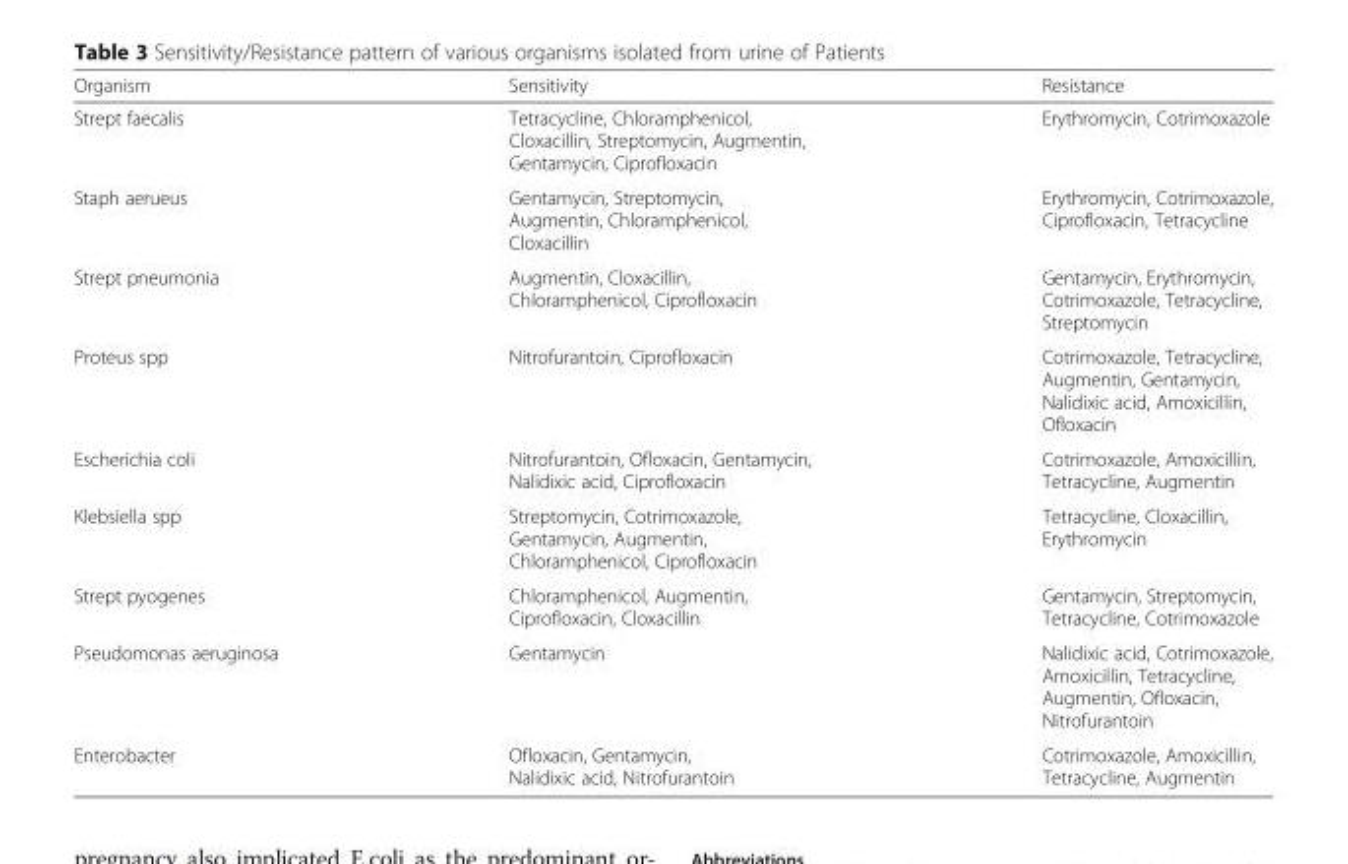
<table><thead><tr><td>Organism</td><td>Sensitivity</td><td>Resistance</td></tr></thead><tbody><tr><td>Strept faecalis</td><td>Tetracycline, Chloramphenicol, Cloxacillin, Streptomycin, Augmentin, Gentamycin, Ciprofloxacin</td><td>Erythromycin, Cotrimoxazole</td></tr><tr><td>Staph aerueus</td><td>Gentamycin, Streptomycin, Augmentin, Chloramphenicol, Cloxacillin</td><td>Erythromycin, Cotrimoxazole, Ciprofloxacin, Tetracycline</td></tr><tr><td>Strept pneumonia</td><td>Augmentin, Cloxacillin, Chloramphenicol, Ciprofloxacin</td><td>Gentamycin, Erythromycin, Cotrimoxazole, Tetracycline, Streptomycin</td></tr><tr><td>Proteus spp</td><td>Nitrofurantoin, Ciprofloxacin</td><td>Cotrimoxazole, Tetracycline, Augmentin, Gentamycin, Nalidixic acid, Amoxicillin, Ofloxacin</td></tr><tr><td>Escherichia coli</td><td>Nitrofurantoin, Ofloxacin, Gentamycin, Nalidixic acid, Ciprofloxacin</td><td>Cotrimoxazole, Amoxicillin, Tetracycline, Augmentin</td></tr><tr><td>Klebsiella spp</td><td>Streptomycin, Cotrimoxazole, Gentamycin, Augmentin, Chloramphenicol, Ciprofloxacin</td><td>Tetracycline, Cloxacillin, Erythromycin</td></tr><tr><td>Strept pyogenes</td><td>Chloramphenicol, Augmentin, Ciprofloxacin, Cloxacillin</td><td>Gentamycin, Streptomycin, Tetracycline, Cotrimoxazole</td></tr><tr><td>Pseudomonas aeruginosa</td><td>Gentamycin</td><td>Nalidixic acid, Cotrimoxazole, Amoxicillin, Tetracycline, Augmentin, Ofloxacin, Nitrofurantoin</td></tr><tr><td>Enterobacter</td><td>Ofloxacin, Gentamycin, Nalidixic acid, Nitrofurantoin</td><td>Cotrimoxazole, Amoxicillin, Tetracycline, Augmentin</td></tr></tbody></table>